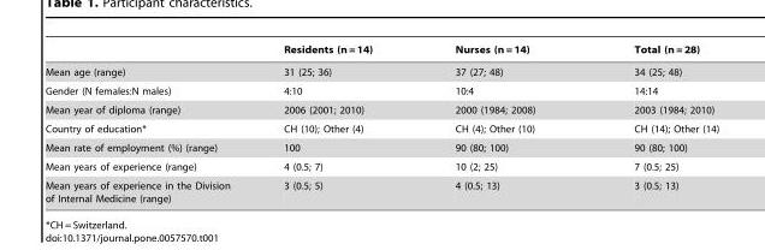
<table><thead><tr><td></td><td>Residents (n = 14)</td><td>Nurses (n = 14)</td><td>Total (n = 28)</td></tr></thead><tbody><tr><td>Mean age (range)</td><td>31 (25; 36)</td><td>37 (27; 48)</td><td>34 (25; 48)</td></tr><tr><td>Gender (N females:N males)</td><td>4:10</td><td>10:4</td><td>14:14</td></tr><tr><td>Mean year of diploma (range)</td><td>2006 (2001; 2010)</td><td>2000 (1984; 2008)</td><td>2003 (1984; 2010)</td></tr><tr><td>Country of education*</td><td>CH (10); Other (4)</td><td>CH (4); Other (10)</td><td>CH (14); Other (14)</td></tr><tr><td>Mean rate of employment (%) (range)</td><td>100</td><td>90 (80; 100)</td><td>90 (80; 100)</td></tr><tr><td>Mean years of experience (range)</td><td>4 (0.5; 7)</td><td>10 (2; 25)</td><td>7 (0.5; 25)</td></tr><tr><td>Mean years of experience in the Division of Internal Medicine (range)</td><td>3 (0.5; 5)</td><td>4 (0.5; 13)</td><td>3 (0.5; 13)</td></tr></tbody></table>